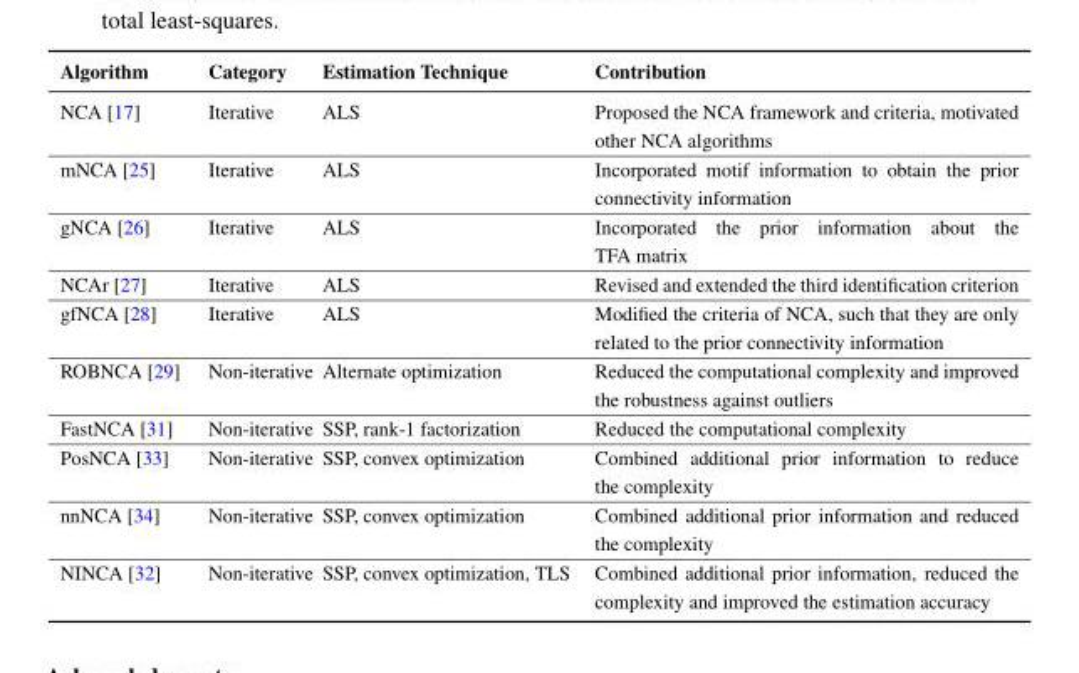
<table><thead><tr><td>Algorithm</td><td>Category</td><td>Estimation Technique</td><td>Contribution</td></tr></thead><tbody><tr><td>NCA [17]</td><td>Iterative</td><td>ALS</td><td>Proposed the NCA framework and criteria, motivated other NCA algorithms</td></tr><tr><td>mNCA [25]</td><td>Iterative</td><td>ALS</td><td>Incorporated motif information to obtain the prior connectivity information</td></tr><tr><td>gNCA [26]</td><td>Iterative</td><td>ALS</td><td>Incorporated the prior information about the TFA matrix</td></tr><tr><td>NCAr [27]</td><td>Iterative</td><td>ALS</td><td>Revised and extended the third identification criterion</td></tr><tr><td>gfNCA [28]</td><td>Iterative</td><td>ALS</td><td>Modified the criteria of NCA, such that they are only related to the prior connectivity information</td></tr><tr><td>ROBNCA [29]</td><td>Non-iterative</td><td>Alternate optimization</td><td>Reduced the computational complexity and improved the robustness against outliers</td></tr><tr><td>FastNCA [31]</td><td>Non-iterative</td><td>SSP, rank-1 factorization</td><td>Reduced the computational complexity</td></tr><tr><td>PosNCA [33]</td><td>Non-iterative</td><td>SSP, convex optimization</td><td>Combined additional prior information to reduce the complexity</td></tr><tr><td>nnNCA [34]</td><td>Non-iterative</td><td>SSP, convex optimization</td><td>Combined additional prior information and reduced the complexity</td></tr><tr><td>NINCA [32]</td><td>Non-iterative</td><td>SSP, convex optimization, TLS</td><td>Combined additional prior information, reduced the complexity and improved the estimation accuracy</td></tr></tbody></table>